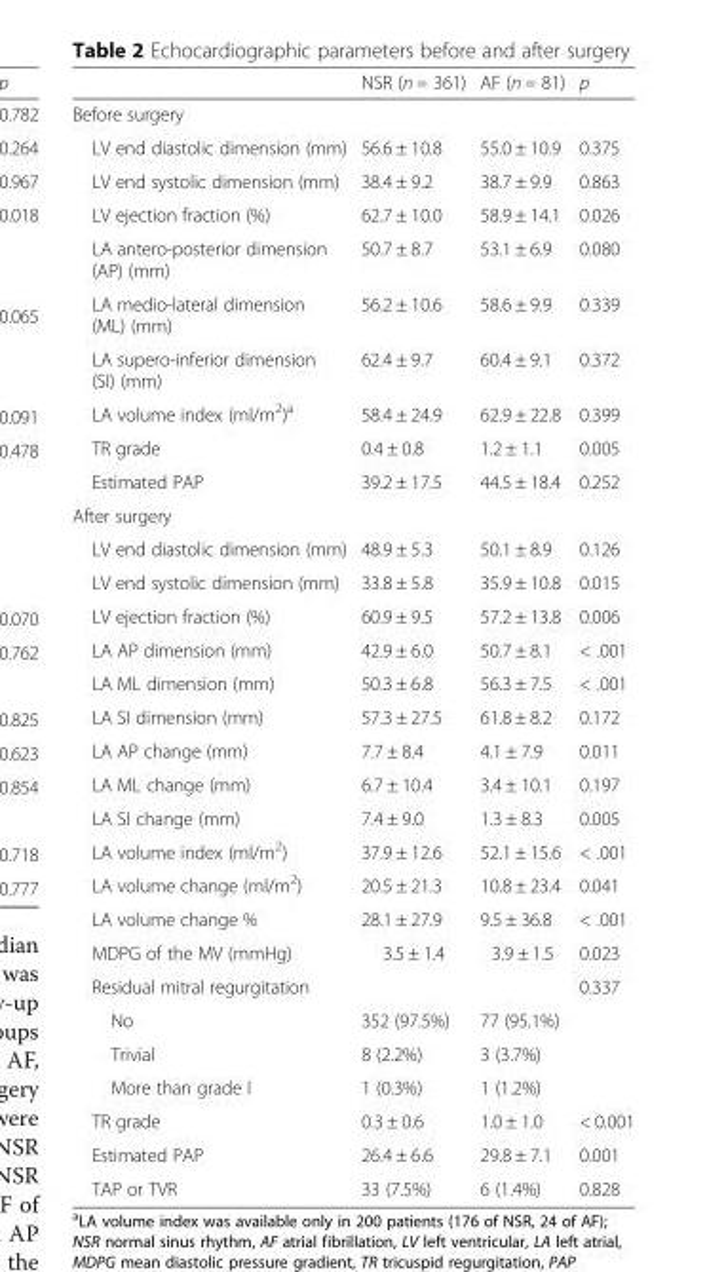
<table><thead><tr><td></td><td>NSR (n = 361)</td><td>AF (n = 81)</td><td>p</td></tr></thead><tbody><tr><td colspan="4">Before surgery</td></tr><tr><td>LV end diastolic dimension (mm)</td><td>56.6 ± 10.8</td><td>55.0 ± 10.9</td><td>0.375</td></tr><tr><td>LV end systolic dimension (mm)</td><td>38.4 ± 9.2</td><td>38.7 ± 9.9</td><td>0.863</td></tr><tr><td>LV ejection fraction (%)</td><td>62.7 ± 10.0</td><td>58.9 ± 14.1</td><td>0.026</td></tr><tr><td>LA antero-posterior dimension (AP) (mm)</td><td>50.7 ± 8.7</td><td>53.1 ± 6.9</td><td>0.080</td></tr><tr><td>LA medio-lateral dimension (ML) (mm)</td><td>56.2 ± 10.6</td><td>58.6 ± 9.9</td><td>0.339</td></tr><tr><td>LA supero-inferior dimension (SI) (mm)</td><td>62.4 ± 9.7</td><td>60.4 ± 9.1</td><td>0.372</td></tr><tr><td>LA volume index (ml/m<sup>2</sup>)<sup>a</sup></td><td>58.4 ± 24.9</td><td>62.9 ± 22.8</td><td>0.399</td></tr><tr><td>TR grade</td><td>0.4 ± 0.8</td><td>1.2 ± 1.1</td><td>0.005</td></tr><tr><td>Estimated PAP</td><td>39.2 ± 17.5</td><td>44.5 ± 18.4</td><td>0.252</td></tr><tr><td colspan="4">After surgery</td></tr><tr><td>LV end diastolic dimension (mm)</td><td>48.9 ± 5.3</td><td>50.1 ± 8.9</td><td>0.126</td></tr><tr><td>LV end systolic dimension (mm)</td><td>33.8 ± 5.8</td><td>35.9 ± 10.8</td><td>0.015</td></tr><tr><td>LV ejection fraction (%)</td><td>60.9 ± 9.5</td><td>57.2 ± 13.8</td><td>0.006</td></tr><tr><td>LA AP dimension (mm)</td><td>42.9 ± 6.0</td><td>50.7 ± 8.1</td><td>&lt; .001</td></tr><tr><td>LA ML dimension (mm)</td><td>50.3 ± 6.8</td><td>56.3 ± 7.5</td><td>&lt; .001</td></tr><tr><td>LA SI dimension (mm)</td><td>57.3 ± 27.5</td><td>61.8 ± 8.2</td><td>0.172</td></tr><tr><td>LA AP change (mm)</td><td>7.7 ± 8.4</td><td>4.1 ± 7.9</td><td>0.011</td></tr><tr><td>LA ML change (mm)</td><td>6.7 ± 10.4</td><td>3.4 ± 10.1</td><td>0.197</td></tr><tr><td>LA SI change (mm)</td><td>7.4 ± 9.0</td><td>1.3 ± 8.3</td><td>0.005</td></tr><tr><td>LA volume index (ml/m<sup>2</sup>)</td><td>37.9 ± 12.6</td><td>52.1 ± 15.6</td><td>&lt; .001</td></tr><tr><td>LA volume change (ml/m<sup>2</sup>)</td><td>20.5 ± 21.3</td><td>10.8 ± 23.4</td><td>0.041</td></tr><tr><td>LA volume change %</td><td>28.1 ± 27.9</td><td>9.5 ± 36.8</td><td>&lt; .001</td></tr><tr><td>MDPG of the MV (mmHg)</td><td>3.5 ± 1.4</td><td>3.9 ± 1.5</td><td>0.023</td></tr><tr><td>Residual mitral regurgitation</td><td></td><td></td><td>0.337</td></tr><tr><td>No</td><td>352 (97.5%)</td><td>77 (95.1%)</td><td></td></tr><tr><td>Trivial</td><td>8 (2.2%)</td><td>3 (3.7%)</td><td></td></tr><tr><td>More than grade I</td><td>1 (0.3%)</td><td>1 (1.2%)</td><td></td></tr><tr><td>TR grade</td><td>0.3 ± 0.6</td><td>1.0 ± 1.0</td><td>&lt; 0.001</td></tr><tr><td>Estimated PAP</td><td>26.4 ± 6.6</td><td>29.8 ± 7.1</td><td>0.001</td></tr><tr><td>TAP or TVR</td><td>33 (7.5%)</td><td>6 (1.4%)</td><td>0.828</td></tr></tbody></table>